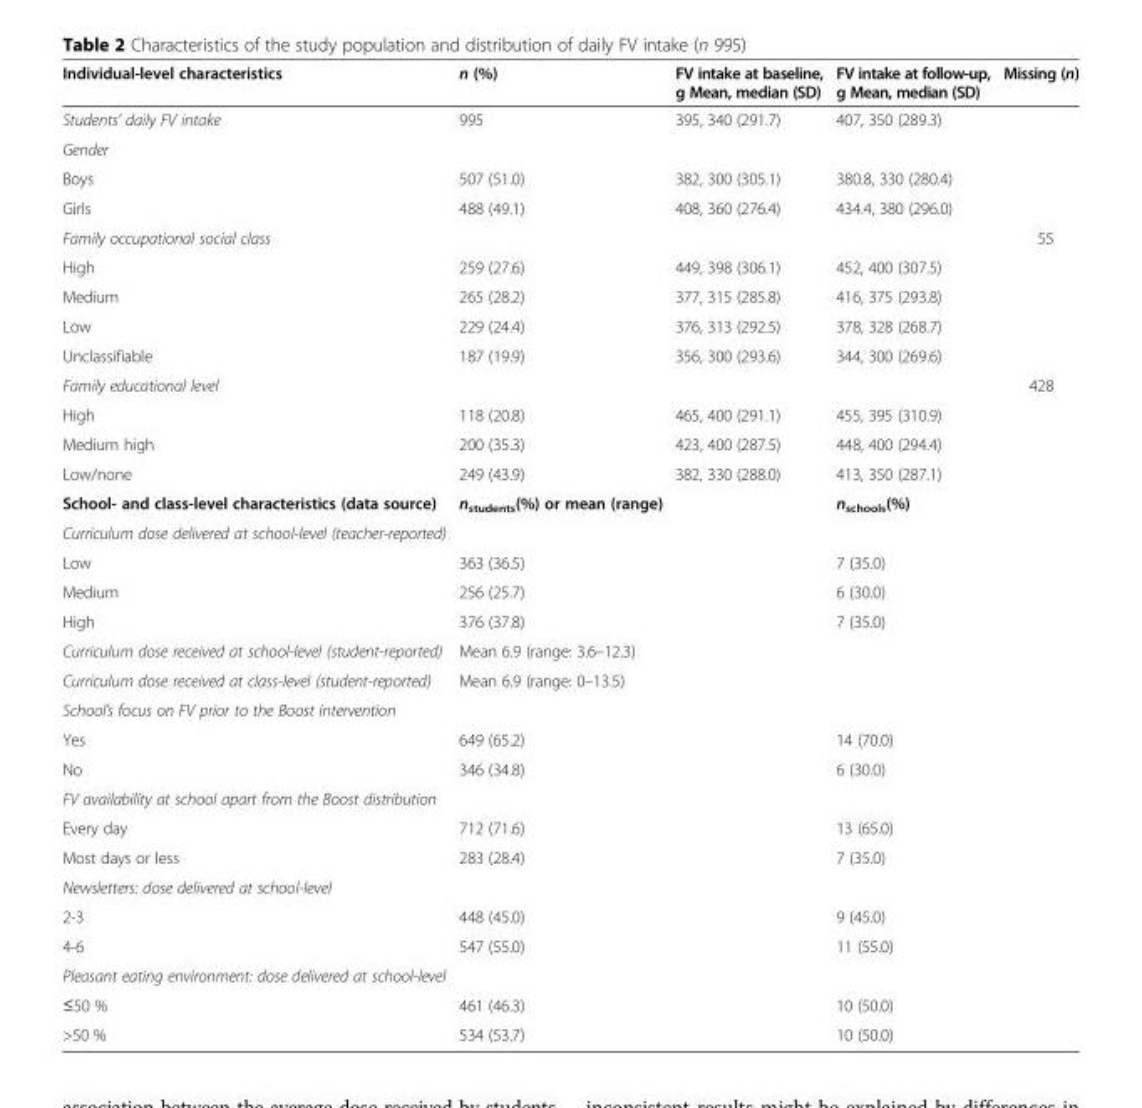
<table><tbody><tr><td>Individual-level characteristics</td><td>n (%)</td><td>FV intake at baseline, g Mean, median (SD)</td><td>FV intake at follow-up, g Mean, median (SD)</td><td>Missing (n)</td></tr><tr><td>Students’ daily FV intake</td><td>995</td><td>395, 340 (291.7)</td><td>407, 350 (289.3)</td><td></td></tr><tr><td colspan="5">Gender</td></tr><tr><td>Boys</td><td>507 (51.0)</td><td>382, 300 (305.1)</td><td>380.8, 330 (280.4)</td><td rowspan="2"></td></tr><tr><td>Girls</td><td>488 (49.1)</td><td>408, 360 (276.4)</td><td>434.4, 380 (296.0)</td></tr><tr><td>Family occupational social class</td><td></td><td></td><td></td><td>55</td></tr><tr><td>High</td><td>259 (27.6)</td><td>449, 398 (306.1)</td><td>452, 400 (307.5)</td><td></td></tr><tr><td>Medium</td><td>265 (28.2)</td><td>377, 315 (285.8)</td><td>416, 375 (293.8)</td><td></td></tr><tr><td>Low</td><td>229 (24.4)</td><td>376, 313 (292.5)</td><td>378, 328 (268.7)</td><td></td></tr><tr><td>Unclassifiable</td><td>187 (19.9)</td><td>356, 300 (293.6)</td><td>344, 300 (269.6)</td><td></td></tr><tr><td>Family educational level</td><td></td><td></td><td></td><td>428</td></tr><tr><td>High</td><td>118 (20.8)</td><td>465, 400 (291.1)</td><td>455, 395 (310.9)</td><td></td></tr><tr><td>Medium high</td><td>200 (35.3)</td><td>423, 400 (287.5)</td><td>448, 400 (294.4)</td><td></td></tr><tr><td>Low/none</td><td>249 (43.9)</td><td>382, 330 (288.0)</td><td>413, 350 (287.1)</td><td></td></tr><tr><td>School- and class-level characteristics (data source)</td><td>n<sub>students</sub>(%) or mean (range)</td><td></td><td>n<sub>schools</sub>(%)</td><td></td></tr><tr><td colspan="5">Curriculum dose delivered at school-level (teacher-reported)</td></tr><tr><td>Low</td><td>363 (36.5)</td><td></td><td>7 (35.0)</td><td></td></tr><tr><td>Medium</td><td>256 (25.7)</td><td></td><td>6 (30.0)</td><td></td></tr><tr><td>High</td><td>376 (37.8)</td><td></td><td>7 (35.0)</td><td></td></tr><tr><td>Curriculum dose received at school-level (student-reported)</td><td>Mean 6.9 (range: 3.6–12.3)</td><td></td><td></td><td></td></tr><tr><td>Curriculum dose received at class-level (student-reported)</td><td>Mean 6.9 (range: 0–13.5)</td><td></td><td></td><td></td></tr><tr><td colspan="5">School’s focus on FV prior to the Boost intervention</td></tr><tr><td>Yes</td><td>649 (65.2)</td><td></td><td>14 (70.0)</td><td></td></tr><tr><td>No</td><td>346 (34.8)</td><td></td><td>6 (30.0)</td><td></td></tr><tr><td colspan="5">FV availability at school apart from the Boost distribution</td></tr><tr><td>Every day</td><td>712 (71.6)</td><td></td><td>13 (65.0)</td><td></td></tr><tr><td>Most days or less</td><td>283 (28.4)</td><td></td><td>7 (35.0)</td><td></td></tr><tr><td colspan="5">Newsletters: dose delivered at school-level</td></tr><tr><td>2-3</td><td>448 (45.0)</td><td></td><td>9 (45.0)</td><td></td></tr><tr><td>4-6</td><td>547 (55.0)</td><td></td><td>11 (55.0)</td><td></td></tr><tr><td colspan="5">Pleasant eating environment: dose delivered at school-level</td></tr><tr><td>≤50 %</td><td>461 (46.3)</td><td></td><td>10 (50.0)</td><td></td></tr><tr><td>&gt;50 %</td><td>534 (53.7)</td><td></td><td>10 (50.0)</td><td></td></tr></tbody></table>